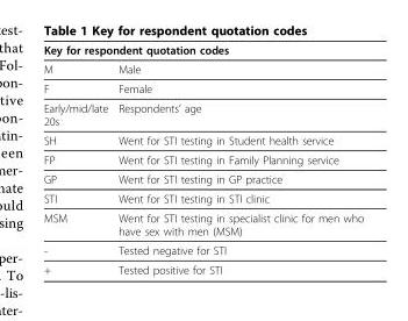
<table><thead><tr><td colspan="2">Key for respondent quotation codes</td></tr><tr><td>M</td><td>Male</td></tr></thead><tbody><tr><td>F</td><td>Female</td></tr><tr><td>Early/mid/late 20s</td><td>Respondents’ age</td></tr><tr><td>SH</td><td>Went for STI testing in Student health service</td></tr><tr><td>FP</td><td>Went for STI testing in Family Planning service</td></tr><tr><td>GP</td><td>Went for STI testing in GP practice</td></tr><tr><td>STI</td><td>Went for STI testing in STI clinic</td></tr><tr><td>MSM</td><td>Went for STI testing in specialist clinic for men who have sex with men (MSM)</td></tr><tr><td>-</td><td>Tested negative for STI</td></tr><tr><td>+</td><td>Tested positive for STI</td></tr></tbody></table>